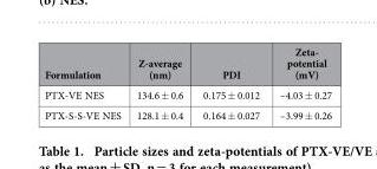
<table><thead><tr><td>Formulation</td><td>Z-average (nm)</td><td>PDI</td><td>Zeta- potential (mV)</td></tr></thead><tbody><tr><td>PTX-VE NES</td><td>134.6 ± 0.6</td><td>0.175 ± 0.012</td><td>–4.03 ± 0.27</td></tr><tr><td>PTX-S-S-VE NES</td><td>128.1 ± 0.4</td><td>0.164 ± 0.027</td><td>–3.99 ± 0.26</td></tr></tbody></table>